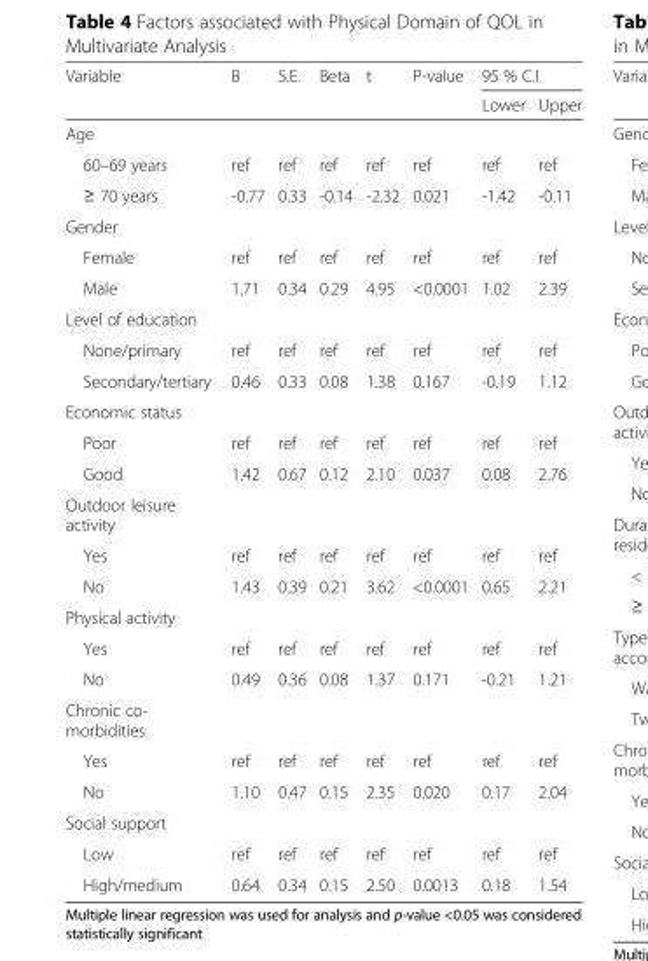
<table><thead><tr><td rowspan="2">Variable</td><td rowspan="2">B</td><td rowspan="2">S.E.</td><td rowspan="2">Beta</td><td rowspan="2">t</td><td rowspan="2">P-value</td><td colspan="2">95 % C.I</td></tr><tr><td>Lower</td><td>Upper</td></tr></thead><tbody><tr><td colspan="8">Age</td></tr><tr><td>60–69 years</td><td>ref</td><td>ref</td><td>ref</td><td>ref</td><td>ref</td><td>ref</td><td>ref</td></tr><tr><td>≥ 70 years</td><td>-0.77</td><td>0.33</td><td>-0.14</td><td>-2.32</td><td>0.021</td><td>-1.42</td><td>-0.11</td></tr><tr><td colspan="8">Gender</td></tr><tr><td>Female</td><td>ref</td><td>ref</td><td>ref</td><td>ref</td><td>ref</td><td>ref</td><td>ref</td></tr><tr><td>Male</td><td>1.71</td><td>0.34</td><td>0.29</td><td>4.95</td><td>&lt;0.0001</td><td>1.02</td><td>2.39</td></tr><tr><td colspan="8">Level of education</td></tr><tr><td>None/primary</td><td>ref</td><td>ref</td><td>ref</td><td>ref</td><td>ref</td><td>ref</td><td>ref</td></tr><tr><td>Secondary/tertiary</td><td>0.46</td><td>0.33</td><td>0.08</td><td>1.38</td><td>0.167</td><td>-0.19</td><td>1.12</td></tr><tr><td colspan="8">Economic status</td></tr><tr><td>Poor</td><td>ref</td><td>ref</td><td>ref</td><td>ref</td><td>ref</td><td>ref</td><td>ref</td></tr><tr><td>Good</td><td>1.42</td><td>0.67</td><td>0.12</td><td>2.10</td><td>0.037</td><td>0.08</td><td>2.76</td></tr><tr><td colspan="8">Outdoor leisure activity</td></tr><tr><td>Yes</td><td>ref</td><td>ref</td><td>ref</td><td>ref</td><td>ref</td><td>ref</td><td>ref</td></tr><tr><td>No</td><td>1.43</td><td>0.39</td><td>0.21</td><td>3.62</td><td>&lt;0.0001</td><td>0.65</td><td>2.21</td></tr><tr><td colspan="8">Physical activity</td></tr><tr><td>Yes</td><td>ref</td><td>ref</td><td>ref</td><td>ref</td><td>ref</td><td>ref</td><td>ref</td></tr><tr><td>No</td><td>0.49</td><td>0.36</td><td>0.08</td><td>1.37</td><td>0.171</td><td>-0.21</td><td>1.21</td></tr><tr><td colspan="8">Chronic co- morbidities</td></tr><tr><td>Yes</td><td>ref</td><td>ref</td><td>ref</td><td>ref</td><td>ref</td><td>ref</td><td>ref</td></tr><tr><td>No</td><td>1.10</td><td>0.47</td><td>0.15</td><td>2.35</td><td>0.020</td><td>0.17</td><td>2.04</td></tr><tr><td colspan="8">Social support</td></tr><tr><td>Low</td><td>ref</td><td>ref</td><td>ref</td><td>ref</td><td>ref</td><td>ref</td><td>ref</td></tr><tr><td>High/medium</td><td>0.64</td><td>0.34</td><td>0.15</td><td>2.50</td><td>0.0013</td><td>0.18</td><td>1.54</td></tr></tbody></table>